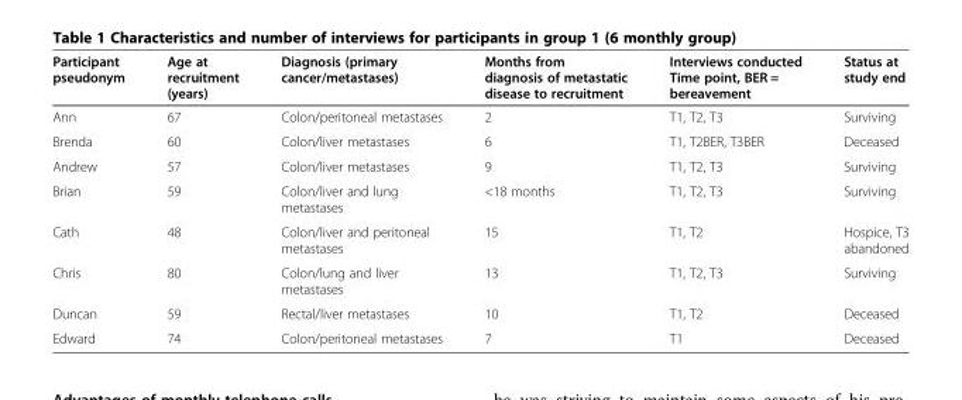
<table><thead><tr><td>Participant pseudonym</td><td>Age at recruitment (years)</td><td>Diagnosis (primary cancer/metastases)</td><td>Months from diagnosis of metastatic disease to recruitment</td><td>Interviews conducted Time point, BER = bereavement</td><td>Status at study end</td></tr></thead><tbody><tr><td>Ann</td><td>67</td><td>Colon/peritoneal metastases</td><td>2</td><td>T1, T2, T3</td><td>Surviving</td></tr><tr><td>Brenda</td><td>60</td><td>Colon/liver metastases</td><td>6</td><td>T1, T2BER, T3BER</td><td>Deceased</td></tr><tr><td>Andrew</td><td>57</td><td>Colon/liver metastases</td><td>9</td><td>T1, T2, T3</td><td>Surviving</td></tr><tr><td>Brian</td><td>59</td><td>Colon/liver and lung metastases</td><td>&lt;18 months</td><td>T1, T2, T3</td><td>Surviving</td></tr><tr><td>Cath</td><td>48</td><td>Colon/liver and peritoneal metastases</td><td>15</td><td>T1, T2</td><td>Hospice, T3 abandoned</td></tr><tr><td>Chris</td><td>80</td><td>Colon/lung and liver metastases</td><td>13</td><td>T1, T2, T3</td><td>Surviving</td></tr><tr><td>Duncan</td><td>59</td><td>Rectal/liver metastases</td><td>10</td><td>T1, T2</td><td>Deceased</td></tr><tr><td>Edward</td><td>74</td><td>Colon/peritoneal metastases</td><td>7</td><td>T1</td><td>Deceased</td></tr></tbody></table>